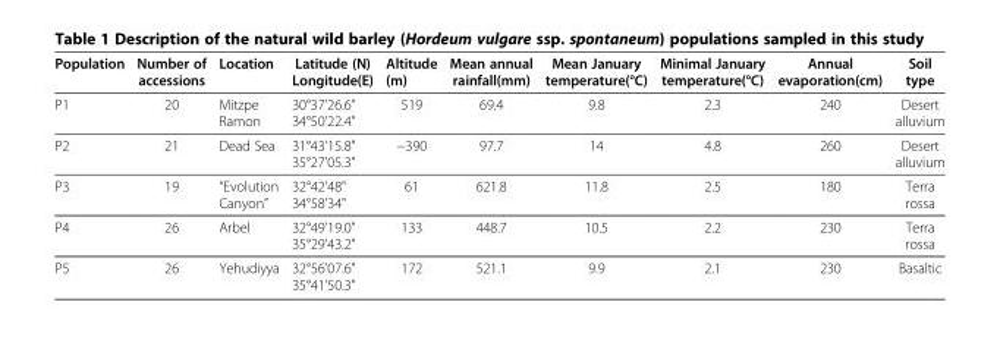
<table><thead><tr><td>Population</td><td>Number of accessions</td><td>Location</td><td>Latitude (N) Longitude(E)</td><td>Altitude (m)</td><td>Mean annual rainfall(mm)</td><td>Mean January temperature(°C)</td><td>Minimal January temperature(°C)</td><td>Annual evaporation(cm)</td><td>Soil type</td></tr></thead><tbody><tr><td>P1</td><td>20</td><td>Mitzpe Ramon</td><td>30°37&#x27;26.6&quot; 34°50&#x27;22.4&quot;</td><td>519</td><td>69.4</td><td>9.8</td><td>2.3</td><td>240</td><td>Desert alluvium</td></tr><tr><td>P2</td><td>21</td><td>Dead Sea</td><td>31°43&#x27;15.8&quot; 35°27&#x27;05.3&quot;</td><td>−390</td><td>97.7</td><td>14</td><td>4.8</td><td>260</td><td>Desert alluvium</td></tr><tr><td>P3</td><td>19</td><td>“Evolution Canyon”</td><td>32°42&#x27;48&quot; 34°58&#x27;34&quot;</td><td>61</td><td>621.8</td><td>11.8</td><td>2.5</td><td>180</td><td>Terra rossa</td></tr><tr><td>P4</td><td>26</td><td>Arbel</td><td>32°49&#x27;19.0&quot; 35°29&#x27;43.2&quot;</td><td>133</td><td>448.7</td><td>10.5</td><td>2.2</td><td>230</td><td>Terra rossa</td></tr><tr><td>P5</td><td>26</td><td>Yehudiyya</td><td>32°56&#x27;07.6&quot; 35°41&#x27;50.3&quot;</td><td>172</td><td>521.1</td><td>9.9</td><td>2.1</td><td>230</td><td>Basaltic</td></tr></tbody></table>